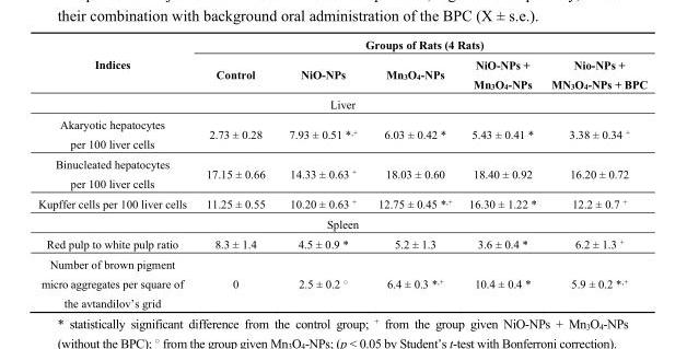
<table><thead><tr><td rowspan="2">Indices</td><td colspan="5">Groups of Rats (4 Rats)</td></tr><tr><td>Control</td><td>NiO-NPs</td><td>Mn<sub>3</sub>O<sub>4</sub>-NPs</td><td>NiO-NPs + Mn<sub>3</sub>O<sub>4</sub>-NPs</td><td>Nio-NPs + MN<sub>3</sub>O<sub>4</sub>-NPs + BPC</td></tr></thead><tbody><tr><td colspan="6">Liver</td></tr><tr><td>Akaryotic hepatocytes per 100 liver cells</td><td>2.73 ± 0.28</td><td>7.93 ± 0.51 *<sup>,+</sup></td><td>6.03 ± 0.42 *</td><td>5.43 ± 0.41 *</td><td>3.38 ± 0.34 <sup>+</sup></td></tr><tr><td>Binucleated hepatocytes per 100 liver cells</td><td>17.15 ± 0.66</td><td>14.33 ± 0.63 <sup>+</sup></td><td>18.03 ± 0.60</td><td>18.40 ± 0.92</td><td>16.20 ± 0.72</td></tr><tr><td>Kupffer cells per 100 liver cells</td><td>11.25 ± 0.55</td><td>10.20 ± 0.63 <sup>+</sup></td><td>12.75 ± 0.45 *<sup>,+</sup></td><td>16.30 ± 1.22 *</td><td>12.2 ± 0.7 <sup>+</sup></td></tr><tr><td colspan="6">Spleen</td></tr><tr><td>Red pulp to white pulp ratio</td><td>8.3 ± 1.4</td><td>4.5 ± 0.9 *</td><td>5.2 ± 1.3</td><td>3.6 ± 0.4 *</td><td>6.2 ± 1.3 <sup>+</sup></td></tr><tr><td>Number of brown pigment micro aggregates per square of the avtandilov’s grid</td><td>0</td><td>2.5 ± 0.2 <sup>○</sup></td><td>6.4 ± 0.3 *<sup>,+</sup></td><td>10.4 ± 0.4 *</td><td>5.9 ± 0.2 *<sup>,+</sup></td></tr></tbody></table>